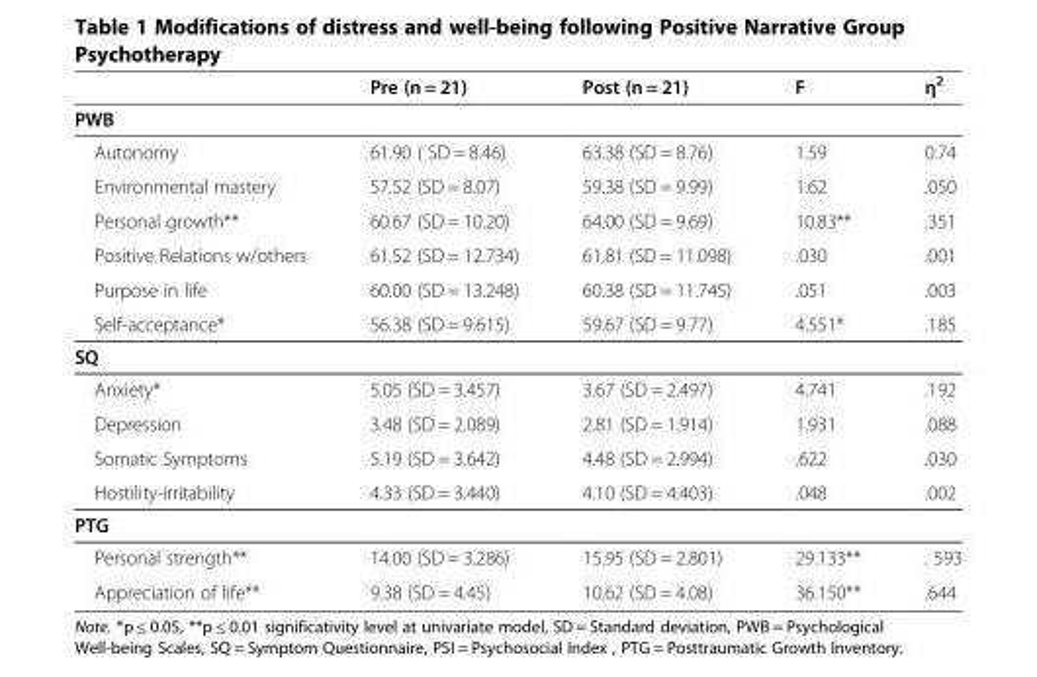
<table><thead><tr><td></td><td>Pre (n = 21)</td><td>Post (n = 21)</td><td>F</td><td>η<sup>2</sup></td></tr></thead><tbody><tr><td colspan="5">PWB</td></tr><tr><td>Autonomy</td><td>61.90 ( SD = 8.46)</td><td>63.38 (SD = 8.76)</td><td>1.59</td><td>0.74</td></tr><tr><td>Environmental mastery</td><td>57.52 (SD = 8.07)</td><td>59.38 (SD = 9.99)</td><td>1.62</td><td>.050</td></tr><tr><td>Personal growth**</td><td>60.67 (SD = 10.20)</td><td>64.00 (SD = 9.69)</td><td>10.83**</td><td>.351</td></tr><tr><td>Positive Relations w/others</td><td>61.52 (SD = 12.734)</td><td>61.81 (SD = 11.098)</td><td>.030</td><td>.001</td></tr><tr><td>Purpose in life</td><td>60.00 (SD = 13.248)</td><td>60.38 (SD = 11.745)</td><td>.051</td><td>.003</td></tr><tr><td>Self-acceptance*</td><td>56.38 (SD = 9.615)</td><td>59.67 (SD = 9.77)</td><td>4.551*</td><td>.185</td></tr><tr><td colspan="5">SQ</td></tr><tr><td>Anxiety*</td><td>5.05 (SD = 3.457)</td><td>3.67 (SD = 2.497)</td><td>4.741</td><td>.192</td></tr><tr><td>Depression</td><td>3.48 (SD = 2.089)</td><td>2.81 (SD = 1.914)</td><td>1.931</td><td>.088</td></tr><tr><td>Somatic Symptoms</td><td>5.19 (SD = 3.642)</td><td>4.48 (SD = 2.994)</td><td>.622</td><td>.030</td></tr><tr><td>Hostility-irritability</td><td>4.33 (SD = 3.440)</td><td>4.10 (SD = 4.403)</td><td>.048</td><td>.002</td></tr><tr><td colspan="5">PTG</td></tr><tr><td>Personal strength**</td><td>14.00 (SD = 3.286)</td><td>15.95 (SD = 2.801)</td><td>29.133**</td><td>. 593</td></tr><tr><td>Appreciation of life**</td><td>9.38 (SD = 4.45)</td><td>10.62 (SD = 4.08)</td><td>36.150**</td><td>.644</td></tr></tbody></table>